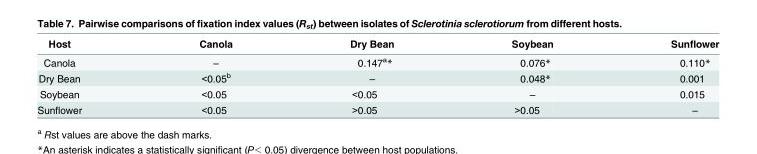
<table><thead><tr><td>Host</td><td>Canola</td><td>Dry Bean</td><td>Soybean</td><td>Sunflower</td></tr></thead><tbody><tr><td>Canola</td><td>–</td><td>0.147<sup>a</sup>*</td><td>0.076*</td><td>0.110*</td></tr><tr><td>Dry Bean</td><td>&lt;0.05<sup>b</sup></td><td>–</td><td>0.048*</td><td>0.001</td></tr><tr><td>Soybean</td><td>&lt;0.05</td><td>&lt;0.05</td><td>–</td><td>0.015</td></tr><tr><td>Sunflower</td><td>&lt;0.05</td><td>&gt;0.05</td><td>&gt;0.05</td><td>–</td></tr></tbody></table>